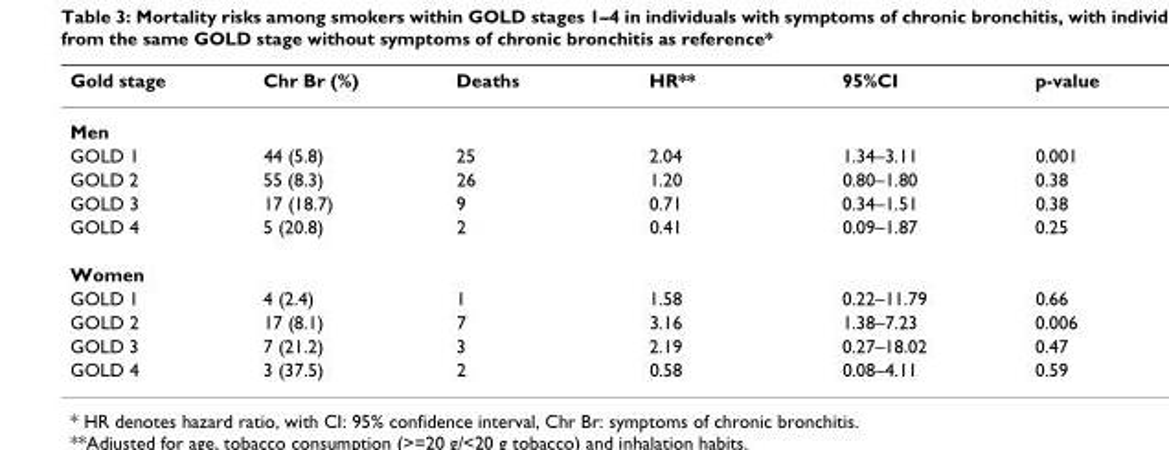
<table><thead><tr><td>Gold stage</td><td>Chr Br (%)</td><td>Deaths</td><td>HR**</td><td>95%CI</td><td>p-value</td></tr></thead><tbody><tr><td colspan="6">Men</td></tr><tr><td>GOLD 1</td><td>44 (5.8)</td><td>25</td><td>2.04</td><td>1.34–3.11</td><td>0.001</td></tr><tr><td>GOLD 2</td><td>55 (8.3)</td><td>26</td><td>1.20</td><td>0.80–1.80</td><td>0.38</td></tr><tr><td>GOLD 3</td><td>17 (18.7)</td><td>9</td><td>0.71</td><td>0.34–1.51</td><td>0.38</td></tr><tr><td>GOLD 4</td><td>5 (20.8)</td><td>2</td><td>0.41</td><td>0.09–1.87</td><td>0.25</td></tr><tr><td colspan="6">Women</td></tr><tr><td>GOLD 1</td><td>4 (2.4)</td><td>1</td><td>1.58</td><td>0.22–11.79</td><td>0.66</td></tr><tr><td>GOLD 2</td><td>17 (8.1)</td><td>7</td><td>3.16</td><td>1.38–7.23</td><td>0.006</td></tr><tr><td>GOLD 3</td><td>7 (21.2)</td><td>3</td><td>2.19</td><td>0.27–18.02</td><td>0.47</td></tr><tr><td>GOLD 4</td><td>3 (37.5)</td><td>2</td><td>0.58</td><td>0.08–4.11</td><td>0.59</td></tr></tbody></table>